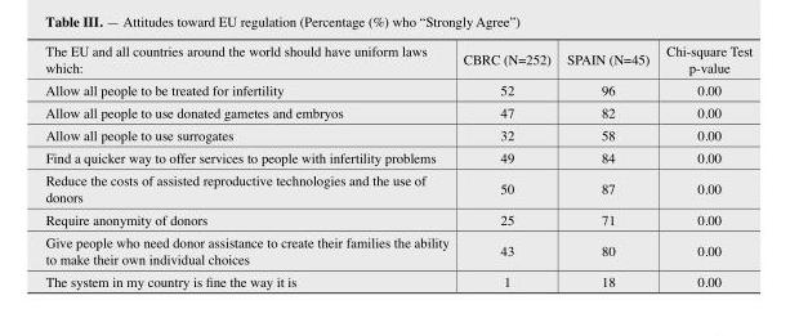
<table><tbody><tr><td>The EU and all countries around the world should have uniform laws which:</td><td>CBRC (N=252)</td><td>SPAIN (N=45)</td><td>Chi-square Test p-value</td></tr><tr><td>Allow all people to be treated for infertility</td><td>52</td><td>96</td><td>0.00</td></tr><tr><td>Allow all people to use donated gametes and embryos</td><td>47</td><td>82</td><td>0.00</td></tr><tr><td>Allow all people to use surrogates</td><td>32</td><td>58</td><td>0.00</td></tr><tr><td>Find a quicker way to offer services to people with infertility problems</td><td>49</td><td>84</td><td>0.00</td></tr><tr><td>Reduce the costs of assisted reproductive technologies and the use of donors</td><td>50</td><td>87</td><td>0.00</td></tr><tr><td>Require anonymity of donors</td><td>25</td><td>71</td><td>0.00</td></tr><tr><td>Give people who need donor assistance to create their families the ability to make their own individual choices</td><td>43</td><td>80</td><td>0.00</td></tr><tr><td>The system in my country is fine the way it is</td><td>1</td><td>18</td><td>0.00</td></tr></tbody></table>